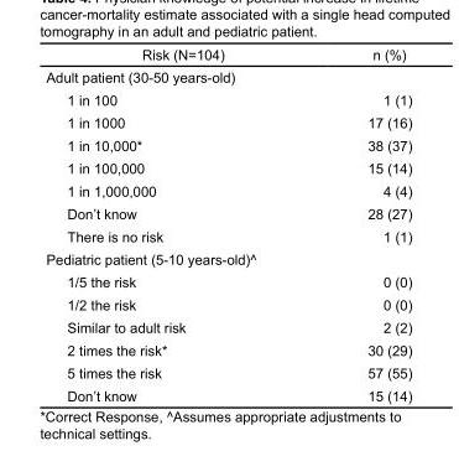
<table><thead><tr><td>Risk (N=104)</td><td>n (%)</td></tr></thead><tbody><tr><td colspan="2">Adult patient (30-50 years-old)</td></tr><tr><td>1 in 100</td><td>1 (1)</td></tr><tr><td>1 in 1000</td><td>17 (16)</td></tr><tr><td>1 in 10,000*</td><td>38 (37)</td></tr><tr><td>1 in 100,000</td><td>15 (14)</td></tr><tr><td>1 in 1,000,000</td><td>4 (4)</td></tr><tr><td>Don’t know</td><td>28 (27)</td></tr><tr><td>There is no risk</td><td>1 (1)</td></tr><tr><td colspan="2">Pediatric patient (5-10 years-old)^</td></tr><tr><td>1/5 the risk</td><td>0 (0)</td></tr><tr><td>1/2 the risk</td><td>0 (0)</td></tr><tr><td>Similar to adult risk</td><td>2 (2)</td></tr><tr><td>2 times the risk*</td><td>30 (29)</td></tr><tr><td>5 times the risk</td><td>57 (55)</td></tr><tr><td>Don’t know</td><td>15 (14)</td></tr></tbody></table>